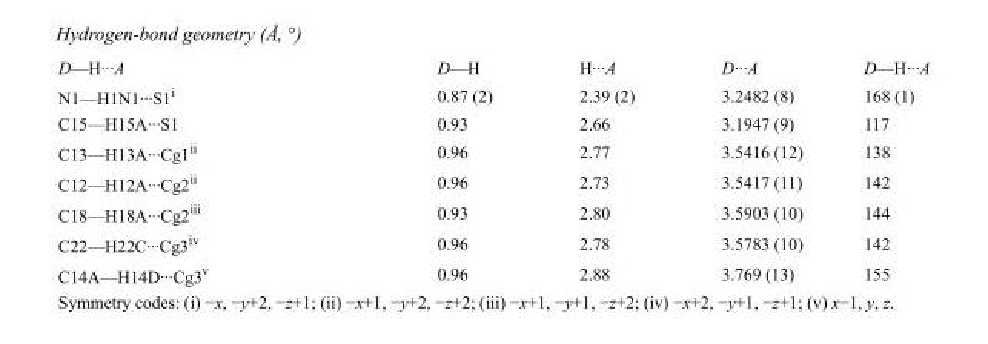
<table><tbody><tr><td>D—H···A</td><td>D—H</td><td>H···A</td><td>D···A</td><td>D—H···A</td></tr><tr><td>N1—H1N1···S1<sup>i</sup></td><td>0.87 (2)</td><td>2.39 (2)</td><td>3.2482 (8)</td><td>168 (1)</td></tr><tr><td>C15—H15A···S1</td><td>0.93</td><td>2.66</td><td>3.1947 (9)</td><td>117</td></tr><tr><td>C13—H13A···Cg1<sup>ii</sup></td><td>0.96</td><td>2.77</td><td>3.5416 (12)</td><td>138</td></tr><tr><td>C12—H12A···Cg2<sup>ii</sup></td><td>0.96</td><td>2.73</td><td>3.5417 (11)</td><td>142</td></tr><tr><td>C18—H18A···Cg2<sup>iii</sup></td><td>0.93</td><td>2.80</td><td>3.5903 (10)</td><td>144</td></tr><tr><td>C22—H22C···Cg3<sup>iv</sup></td><td>0.96</td><td>2.78</td><td>3.5783 (10)</td><td>142</td></tr><tr><td>C14A—H14D···Cg3<sup>v</sup></td><td>0.96</td><td>2.88</td><td>3.769 (13)</td><td>155</td></tr></tbody></table>